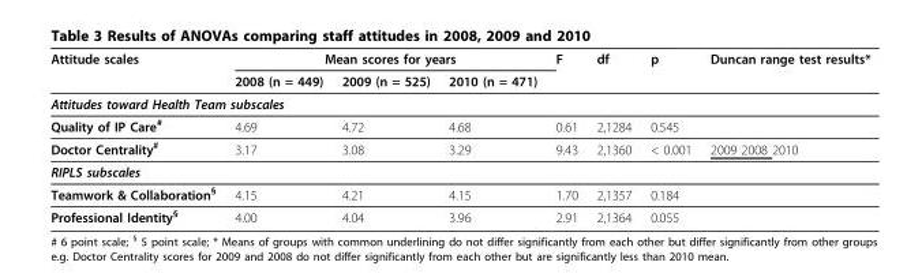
<table><thead><tr><td rowspan="2">Attitude scales</td><td colspan="3">Mean scores for years</td><td rowspan="2">F</td><td rowspan="2">df</td><td rowspan="2">p</td><td rowspan="2">Duncan range test results*</td></tr><tr><td>2008 (n = 449)</td><td>2009 (n = 525)</td><td>2010 (n = 471)</td></tr></thead><tbody><tr><td colspan="8">Attitudes toward Health Team subscales</td></tr><tr><td>Quality of IP Care<sup>#</sup></td><td>4.69</td><td>4.72</td><td>4.68</td><td>0.61</td><td>2,1284</td><td>0.545</td><td></td></tr><tr><td>Doctor Centrality<sup>#</sup></td><td>3.17</td><td>3.08</td><td>3.29</td><td>9.43</td><td>2,1360</td><td>&lt; 0.001</td><td>2009 2008 2010</td></tr><tr><td colspan="8">RIPLS subscales</td></tr><tr><td>Teamwork &amp; Collaboration<sup>§</sup></td><td>4.15</td><td>4.21</td><td>4.15</td><td>1.70</td><td>2,1357</td><td>0.184</td><td></td></tr><tr><td>Professional Identity<sup>§</sup></td><td>4.00</td><td>4.04</td><td>3.96</td><td>2.91</td><td>2,1364</td><td>0.055</td><td></td></tr></tbody></table>